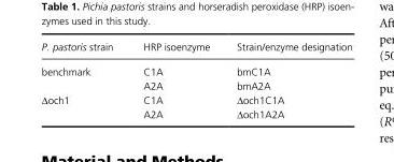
<table><thead><tr><td>P. pastoris strain</td><td>HRP isoenzyme</td><td>Strain/enzyme designation</td></tr></thead><tbody><tr><td rowspan="2">benchmark</td><td>C1A</td><td>bmC1A</td></tr><tr><td>A2A</td><td>bmA2A</td></tr><tr><td rowspan="2">Δoch1</td><td>C1A</td><td>Δoch1C1A</td></tr><tr><td>A2A</td><td>Δoch1A2A</td></tr></tbody></table>